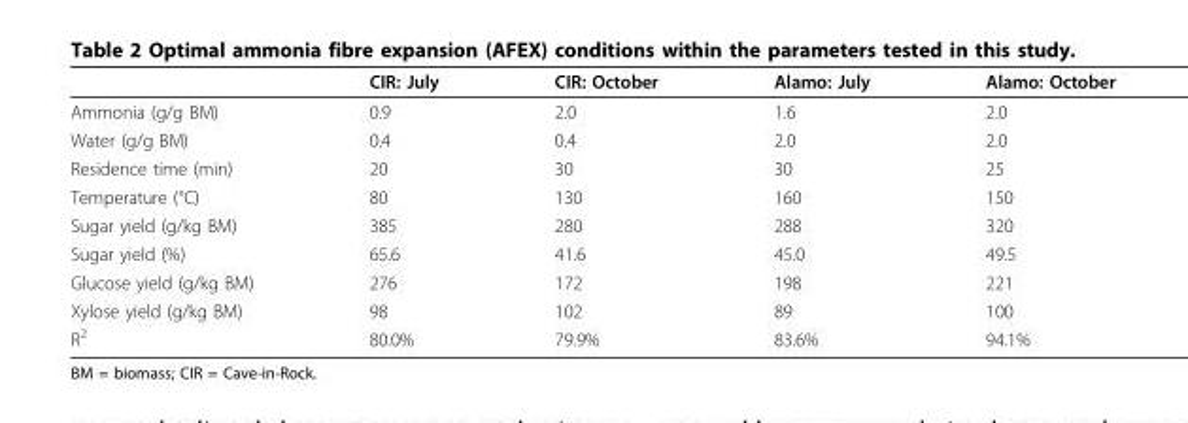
<table><thead><tr><td></td><td>CIR: July</td><td>CIR: October</td><td>Alamo: July</td><td>Alamo: October</td></tr></thead><tbody><tr><td>Ammonia (g/g BM)</td><td>0.9</td><td>2.0</td><td>1.6</td><td>2.0</td></tr><tr><td>Water (g/g BM)</td><td>0.4</td><td>0.4</td><td>2.0</td><td>2.0</td></tr><tr><td>Residence time (min)</td><td>20</td><td>30</td><td>30</td><td>25</td></tr><tr><td>Temperature (°C)</td><td>80</td><td>130</td><td>160</td><td>150</td></tr><tr><td>Sugar yield (g/kg BM)</td><td>385</td><td>280</td><td>288</td><td>320</td></tr><tr><td>Sugar yield (%)</td><td>65.6</td><td>41.6</td><td>45.0</td><td>49.5</td></tr><tr><td>Glucose yield (g/kg BM)</td><td>276</td><td>172</td><td>198</td><td>221</td></tr><tr><td>Xylose yield (g/kg BM)</td><td>98</td><td>102</td><td>89</td><td>100</td></tr><tr><td>R<sup>2</sup></td><td>80.0%</td><td>79.9%</td><td>83.6%</td><td>94.1%</td></tr></tbody></table>